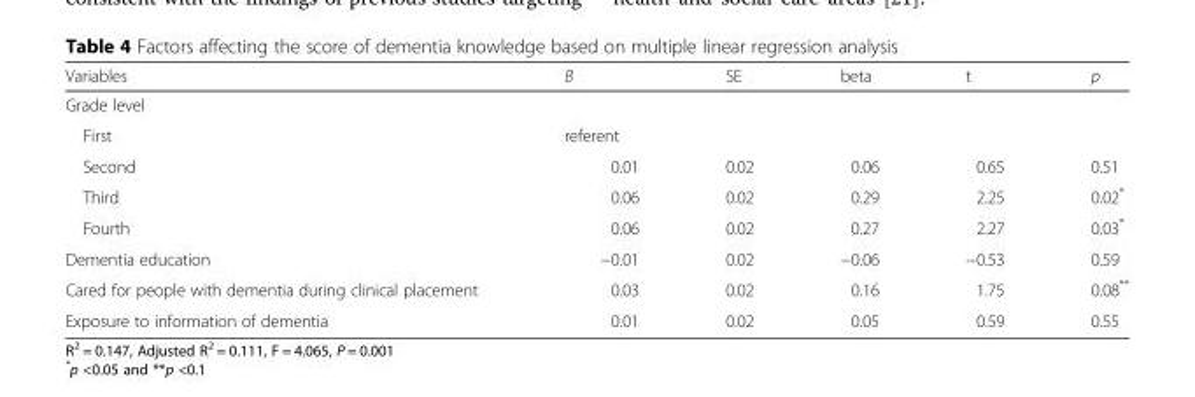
<table><thead><tr><td>Variables</td><td>B</td><td>SE</td><td>beta</td><td>t</td><td>p</td></tr></thead><tbody><tr><td colspan="6">Grade level</td></tr><tr><td>First</td><td>referent</td><td></td><td></td><td></td><td></td></tr><tr><td>Second</td><td>0.01</td><td>0.02</td><td>0.06</td><td>0.65</td><td>0.51</td></tr><tr><td>Third</td><td>0.06</td><td>0.02</td><td>0.29</td><td>2.25</td><td>0.02*</td></tr><tr><td>Fourth</td><td>0.06</td><td>0.02</td><td>0.27</td><td>2.27</td><td>0.03*</td></tr><tr><td>Dementia education</td><td>−0.01</td><td>0.02</td><td>−0.06</td><td>−0.53</td><td>0.59</td></tr><tr><td>Cared for people with dementia during clinical placement</td><td>0.03</td><td>0.02</td><td>0.16</td><td>1.75</td><td>0.08**</td></tr><tr><td>Exposure to information of dementia</td><td>0.01</td><td>0.02</td><td>0.05</td><td>0.59</td><td>0.55</td></tr></tbody></table>